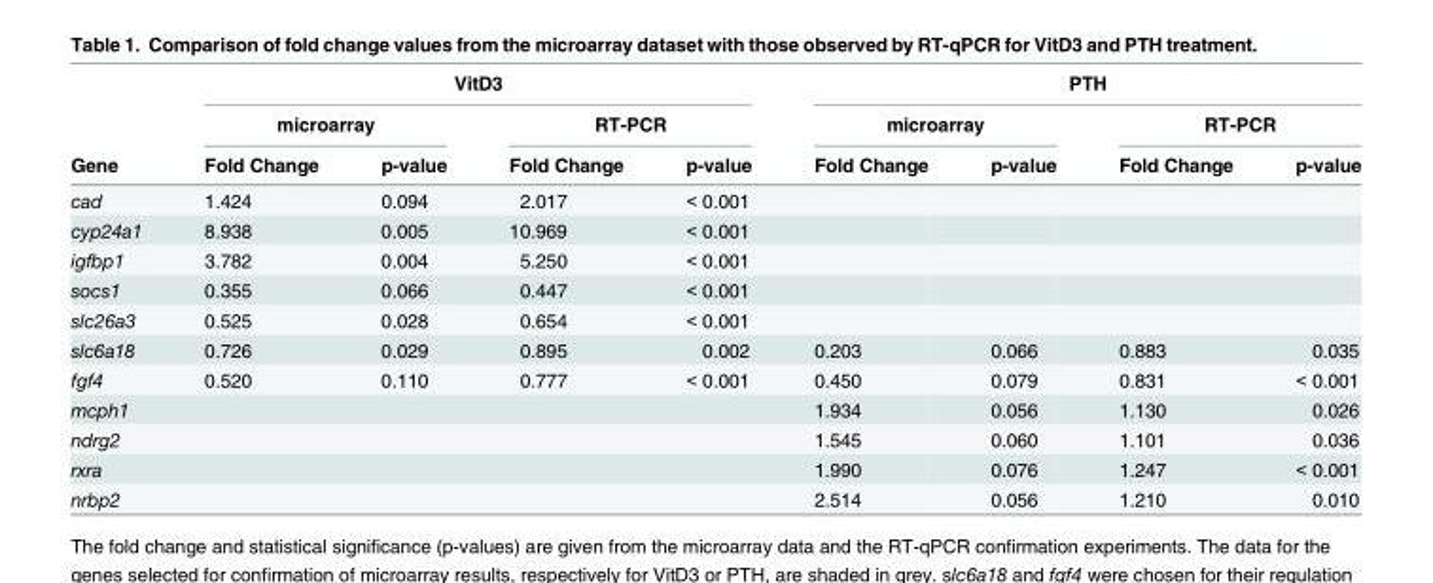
<table><thead><tr><td rowspan="3">Gene</td><td colspan="4">VitD3</td><td colspan="4">PTH</td></tr><tr><td colspan="2">microarray</td><td colspan="2">RT-PCR</td><td colspan="2">microarray</td><td colspan="2">RT-PCR</td></tr><tr><td>Fold Change</td><td>p-value</td><td>Fold Change</td><td>p-value</td><td>Fold Change</td><td>p-value</td><td>Fold Change</td><td>p-value</td></tr></thead><tbody><tr><td>cad</td><td>1.424</td><td>0.094</td><td>2.017</td><td>&lt; 0.001</td><td></td><td></td><td></td><td></td></tr><tr><td>cyp24a1</td><td>8.938</td><td>0.005</td><td>10.969</td><td>&lt; 0.001</td><td></td><td></td><td></td><td></td></tr><tr><td>igfbp1</td><td>3.782</td><td>0.004</td><td>5.250</td><td>&lt; 0.001</td><td></td><td></td><td></td><td></td></tr><tr><td>socs1</td><td>0.355</td><td>0.066</td><td>0.447</td><td>&lt; 0.001</td><td></td><td></td><td></td><td></td></tr><tr><td>slc26a3</td><td>0.525</td><td>0.028</td><td>0.654</td><td>&lt; 0.001</td><td></td><td></td><td></td><td></td></tr><tr><td>slc6a18</td><td>0.726</td><td>0.029</td><td>0.895</td><td>0.002</td><td>0.203</td><td>0.066</td><td>0.883</td><td>0.035</td></tr><tr><td>fgf4</td><td>0.520</td><td>0.110</td><td>0.777</td><td>&lt; 0.001</td><td>0.450</td><td>0.079</td><td>0.831</td><td>&lt; 0.001</td></tr><tr><td>mcph1</td><td></td><td></td><td></td><td></td><td>1.934</td><td>0.056</td><td>1.130</td><td>0.026</td></tr><tr><td>ndrg2</td><td></td><td></td><td></td><td></td><td>1.545</td><td>0.060</td><td>1.101</td><td>0.036</td></tr><tr><td>rxra</td><td></td><td></td><td></td><td></td><td>1.990</td><td>0.076</td><td>1.247</td><td>&lt; 0.001</td></tr><tr><td>nrbp2</td><td></td><td></td><td></td><td></td><td>2.514</td><td>0.056</td><td>1.210</td><td>0.010</td></tr></tbody></table>